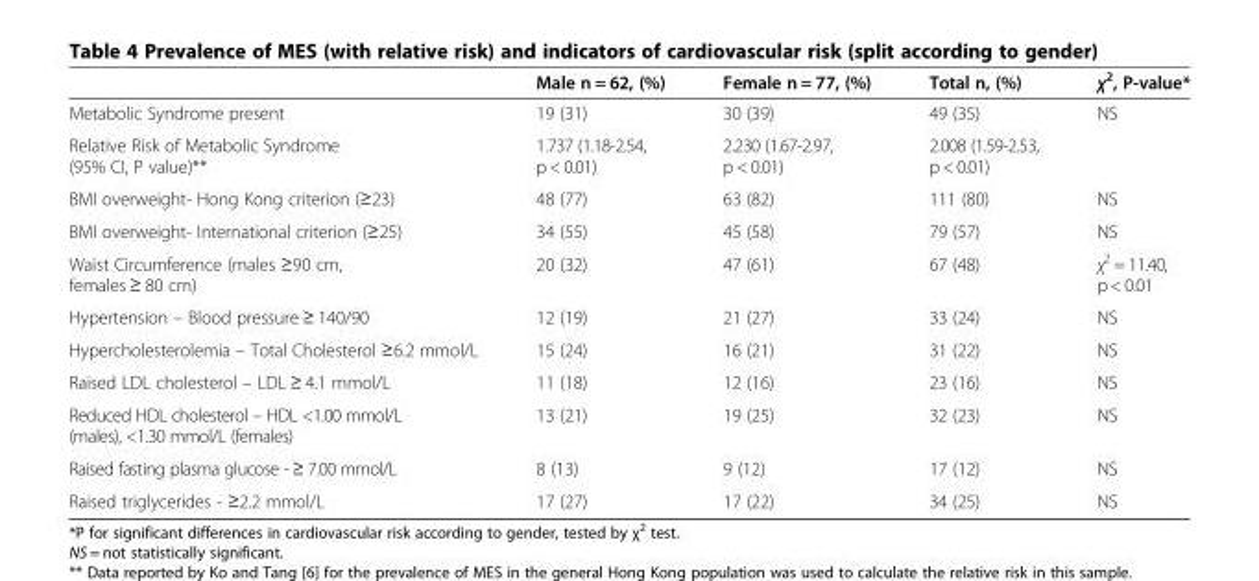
<table><thead><tr><td></td><td>Male n = 62, (%)</td><td>Female n = 77, (%)</td><td>Total n, (%)</td><td>χ<sup>2</sup>, P-value*</td></tr></thead><tbody><tr><td>Metabolic Syndrome present</td><td>19 (31)</td><td>30 (39)</td><td>49 (35)</td><td rowspan="2">NS</td></tr><tr><td>Relative Risk of Metabolic Syndrome (95% CI, P value)**</td><td>1.737 (1.18-2.54, p &lt; 0.01)</td><td>2.230 (1.67-2.97, p &lt; 0.01)</td><td>2.008 (1.59-2.53, p &lt; 0.01)</td></tr><tr><td>BMI overweight- Hong Kong criterion (≥23)</td><td>48 (77)</td><td>63 (82)</td><td>111 (80)</td><td>NS</td></tr><tr><td>BMI overweight- International criterion (≥25)</td><td>34 (55)</td><td>45 (58)</td><td>79 (57)</td><td>NS</td></tr><tr><td>Waist Circumference (males ≥90 cm, females ≥ 80 cm)</td><td>20 (32)</td><td>47 (61)</td><td>67 (48)</td><td>χ<sup>2</sup> = 11.40, p &lt; 0.01</td></tr><tr><td>Hypertension – Blood pressure ≥ 140/90</td><td>12 (19)</td><td>21 (27)</td><td>33 (24)</td><td>NS</td></tr><tr><td>Hypercholesterolemia – Total Cholesterol ≥6.2 mmol/L</td><td>15 (24)</td><td>16 (21)</td><td>31 (22)</td><td>NS</td></tr><tr><td>Raised LDL cholesterol – LDL ≥ 4.1 mmol/L</td><td>11 (18)</td><td>12 (16)</td><td>23 (16)</td><td>NS</td></tr><tr><td>Reduced HDL cholesterol – HDL &lt;1.00 mmol/L (males), &lt;1.30 mmol/L (females)</td><td>13 (21)</td><td>19 (25)</td><td>32 (23)</td><td>NS</td></tr><tr><td>Raised fasting plasma glucose - ≥ 7.00 mmol/L</td><td>8 (13)</td><td>9 (12)</td><td>17 (12)</td><td>NS</td></tr><tr><td>Raised triglycerides - ≥2.2 mmol/L</td><td>17 (27)</td><td>17 (22)</td><td>34 (25)</td><td>NS</td></tr></tbody></table>